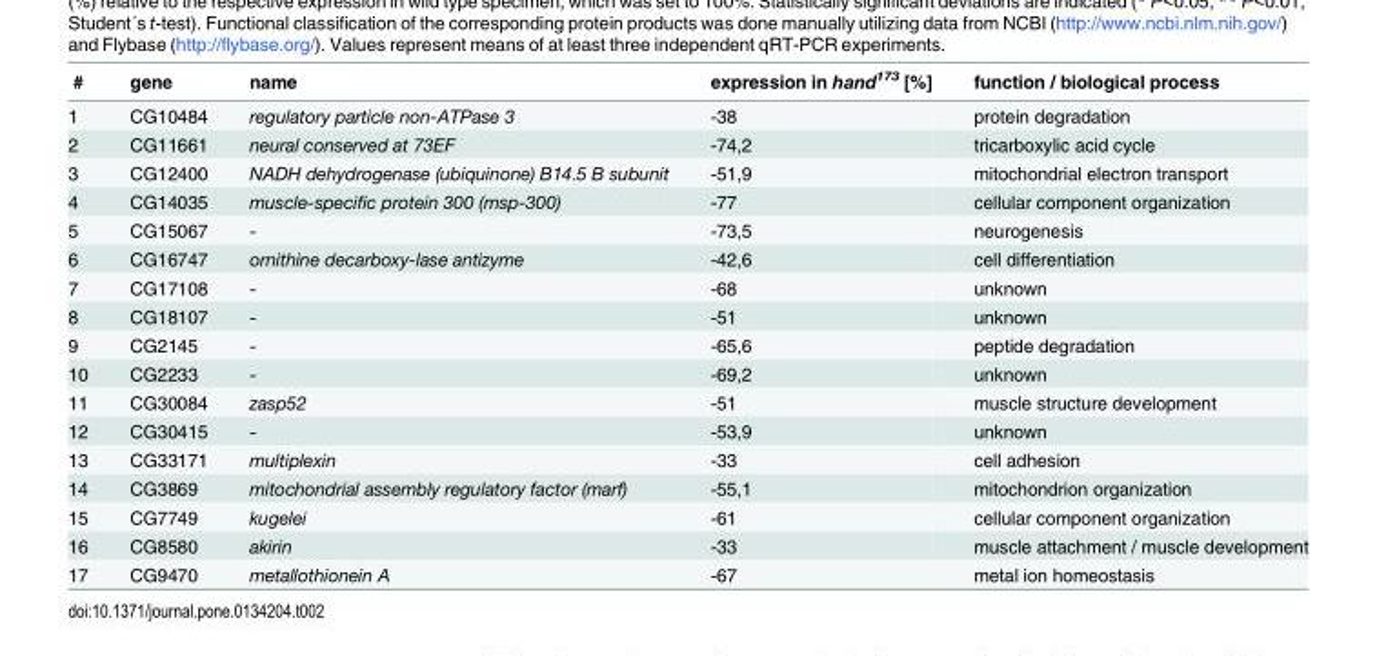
<table><thead><tr><td>#</td><td>gene</td><td>name</td><td>expression in hand<sup>173</sup> [%]</td><td>function / biological process</td></tr></thead><tbody><tr><td>1</td><td>CG10484</td><td>regulatory particle non-ATPase 3</td><td>-38</td><td>protein degradation</td></tr><tr><td>2</td><td>CG11661</td><td>neural conserved at 73EF</td><td>-74,2</td><td>tricarboxylic acid cycle</td></tr><tr><td>3</td><td>CG12400</td><td>NADH dehydrogenase (ubiquinone) B14.5 B subunit</td><td>-51,9</td><td>mitochondrial electron transport</td></tr><tr><td>4</td><td>CG14035</td><td>muscle-specific protein 300 (msp-300)</td><td>-77</td><td>cellular component organization</td></tr><tr><td>5</td><td>CG15067</td><td>-</td><td>-73,5</td><td>neurogenesis</td></tr><tr><td>6</td><td>CG16747</td><td>ornithine decarboxy-lase antizyme</td><td>-42,6</td><td>cell differentiation</td></tr><tr><td>7</td><td>CG17108</td><td>-</td><td>-68</td><td>unknown</td></tr><tr><td>8</td><td>CG18107</td><td>-</td><td>-51</td><td>unknown</td></tr><tr><td>9</td><td>CG2145</td><td>-</td><td>-65,6</td><td>peptide degradation</td></tr><tr><td>10</td><td>CG2233</td><td>-</td><td>-69,2</td><td>unknown</td></tr><tr><td>11</td><td>CG30084</td><td>zasp52</td><td>-51</td><td>muscle structure development</td></tr><tr><td>12</td><td>CG30415</td><td>-</td><td>-53,9</td><td>unknown</td></tr><tr><td>13</td><td>CG33171</td><td>multiplexin</td><td>-33</td><td>cell adhesion</td></tr><tr><td>14</td><td>CG3869</td><td>mitochondrial assembly regulatory factor (marf)</td><td>-55,1</td><td>mitochondrion organization</td></tr><tr><td>15</td><td>CG7749</td><td>kugelei</td><td>-61</td><td>cellular component organization</td></tr><tr><td>16</td><td>CG8580</td><td>akirin</td><td>-33</td><td>muscle attachment / muscle development</td></tr><tr><td>17</td><td>CG9470</td><td>metallothionein A</td><td>-67</td><td>metal ion homeostasis</td></tr></tbody></table>